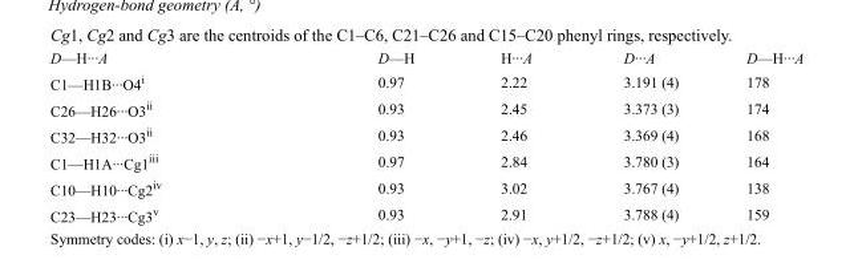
<table><tbody><tr><td>D—H···A</td><td>D—H</td><td>H···A</td><td>D···A</td><td>D—H···A</td></tr><tr><td>C1—H1B···O4<sup>i</sup></td><td>0.97</td><td>2.22</td><td>3.191 (4)</td><td>178</td></tr><tr><td>C26—H26···O3<sup>ii</sup></td><td>0.93</td><td>2.45</td><td>3.373 (3)</td><td>174</td></tr><tr><td>C32—H32···O3<sup>ii</sup></td><td>0.93</td><td>2.46</td><td>3.369 (4)</td><td>168</td></tr><tr><td>C1—H1A···Cg1<sup>iii</sup></td><td>0.97</td><td>2.84</td><td>3.780 (3)</td><td>164</td></tr><tr><td>C10—H10···Cg2<sup>iv</sup></td><td>0.93</td><td>3.02</td><td>3.767 (4)</td><td>138</td></tr><tr><td>C23—H23···Cg3<sup>v</sup></td><td>0.93</td><td>2.91</td><td>3.788 (4)</td><td>159</td></tr></tbody></table>